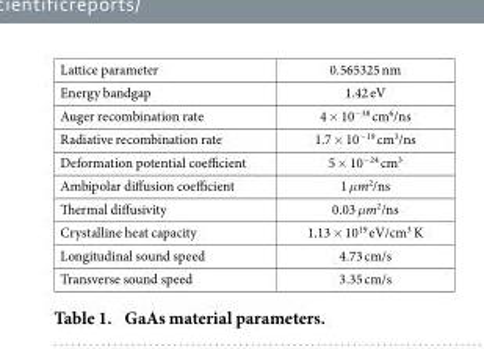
<table><tbody><tr><td>Lattice parameter</td><td>0.565325 nm</td></tr><tr><td>Energy bandgap</td><td>1.42 eV</td></tr><tr><td>Auger recombination rate</td><td>4 × 10<sup>−38</sup> cm<sup>6</sup>/ns</td></tr><tr><td>Radiative recombination rate</td><td>1.7 × 10<sup>−19</sup> cm<sup>3</sup>/ns</td></tr><tr><td>Deformation potential coefficient</td><td>5 × 10<sup>−24</sup> cm<sup>3</sup></td></tr><tr><td>Ambipolar diffusion coefficient</td><td>1 μm<sup>2</sup>/ns</td></tr><tr><td>Thermal diffusivity</td><td>0.03 μm<sup>2</sup>/ns</td></tr><tr><td>Crystalline heat capacity</td><td>1.13 × 10<sup>19</sup> eV/cm<sup>3</sup> K</td></tr><tr><td>Longitudinal sound speed</td><td>4.73 cm/s</td></tr><tr><td>Transverse sound speed</td><td>3.35 cm/s</td></tr></tbody></table>